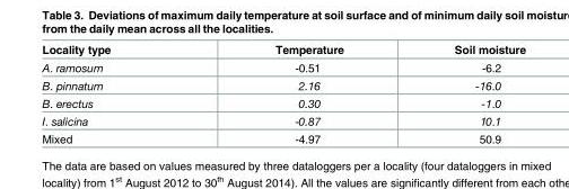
<table><thead><tr><td>Locality type</td><td>Temperature</td><td>Soil moisture</td></tr></thead><tbody><tr><td>A. ramosum</td><td>-0.51</td><td>-6.2</td></tr><tr><td>B. pinnatum</td><td>2.16</td><td>-16.0</td></tr><tr><td>B. erectus</td><td>0.30</td><td>-1.0</td></tr><tr><td>I. salicina</td><td>-0.87</td><td>10.1</td></tr><tr><td>Mixed</td><td>-4.97</td><td>50.9</td></tr></tbody></table>